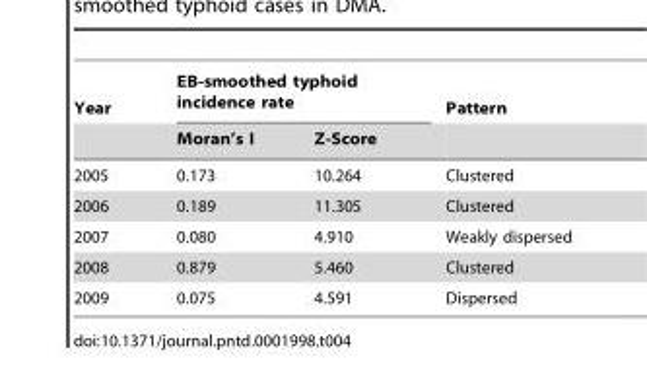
<table><thead><tr><td rowspan="2">Year</td><td colspan="2">EB-smoothed typhoid incidence rate</td><td rowspan="2">Pattern</td></tr><tr><td>Moran’s I</td><td>Z-Score</td></tr></thead><tbody><tr><td>2005</td><td>0.173</td><td>10.264</td><td>Clustered</td></tr><tr><td>2006</td><td>0.189</td><td>11.305</td><td>Clustered</td></tr><tr><td>2007</td><td>0.080</td><td>4.910</td><td>Weakly dispersed</td></tr><tr><td>2008</td><td>0.879</td><td>5.460</td><td>Clustered</td></tr><tr><td>2009</td><td>0.075</td><td>4.591</td><td>Dispersed</td></tr></tbody></table>